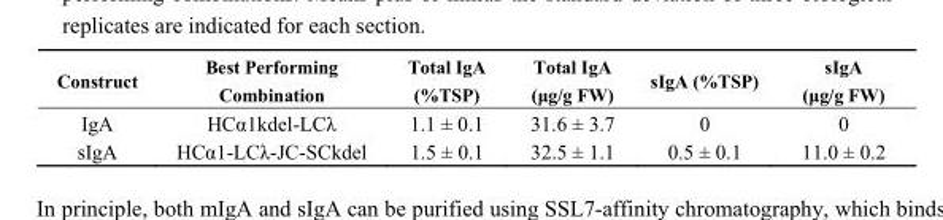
<table><thead><tr><td>Construct</td><td>Best Performing Combination</td><td>Total IgA (%TSP)</td><td>Total IgA (μg/g FW)</td><td>sIgA (%TSP)</td><td>sIgA (μg/g FW)</td></tr></thead><tbody><tr><td>IgA</td><td>HCα1kdel-LCλ</td><td>1.1 ± 0.1</td><td>31.6 ± 3.7</td><td>0</td><td>0</td></tr><tr><td>sIgA</td><td>HCα1-LCλ-JC-SCkdel</td><td>1.5 ± 0.1</td><td>32.5 ± 1.1</td><td>0.5 ± 0.1</td><td>11.0 ± 0.2</td></tr></tbody></table>